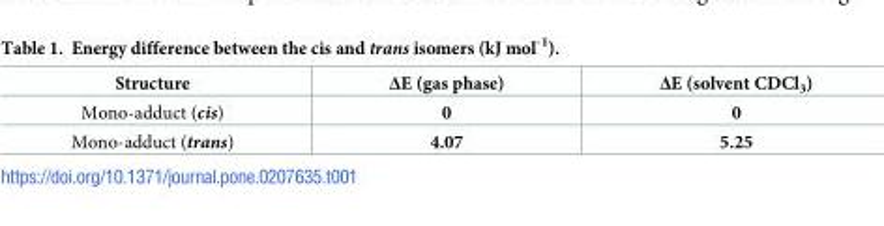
<table><thead><tr><td>Structure</td><td>ΔE (gas phase)</td><td>ΔE (solvent CDCl<sub>3</sub>)</td></tr></thead><tbody><tr><td>Mono-adduct (cis)</td><td>0</td><td>0</td></tr><tr><td>Mono-adduct (trans)</td><td>4.07</td><td>5.25</td></tr></tbody></table>